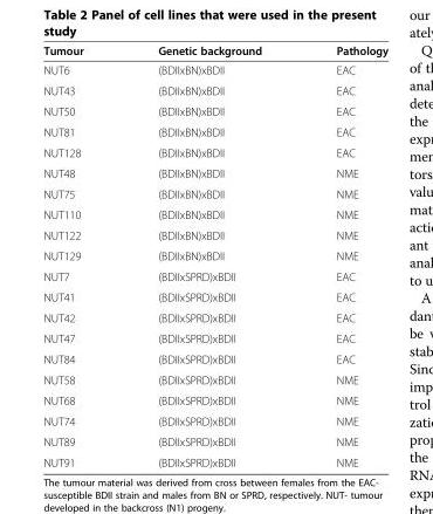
<table><thead><tr><td>Tumour</td><td>Genetic background</td><td>Pathology</td></tr></thead><tbody><tr><td>NUT6</td><td>(BDIIxBN)xBDII</td><td>EAC</td></tr><tr><td>NUT43</td><td>(BDIIxBN)xBDII</td><td>EAC</td></tr><tr><td>NUT50</td><td>(BDIIxBN)xBDII</td><td>EAC</td></tr><tr><td>NUT81</td><td>(BDIIxBN)xBDII</td><td>EAC</td></tr><tr><td>NUT128</td><td>(BDIIxBN)xBDII</td><td>EAC</td></tr><tr><td>NUT48</td><td>(BDIIxBN)xBDII</td><td>NME</td></tr><tr><td>NUT75</td><td>(BDIIxBN)xBDII</td><td>NME</td></tr><tr><td>NUT110</td><td>(BDIIxBN)xBDII</td><td>NME</td></tr><tr><td>NUT122</td><td>(BDIIxBN)xBDII</td><td>NME</td></tr><tr><td>NUT129</td><td>(BDIIxBN)xBDII</td><td>NME</td></tr><tr><td>NUT7</td><td>(BDIIxSPRD)xBDII</td><td>EAC</td></tr><tr><td>NUT41</td><td>(BDIIxSPRD)xBDII</td><td>EAC</td></tr><tr><td>NUT42</td><td>(BDIIxSPRD)xBDII</td><td>EAC</td></tr><tr><td>NUT47</td><td>(BDIIxSPRD)xBDII</td><td>EAC</td></tr><tr><td>NUT84</td><td>(BDIIxSPRD)xBDII</td><td>EAC</td></tr><tr><td>NUT58</td><td>(BDIIxSPRD)xBDII</td><td>NME</td></tr><tr><td>NUT68</td><td>(BDIIxSPRD)xBDII</td><td>NME</td></tr><tr><td>NUT74</td><td>(BDIIxSPRD)xBDII</td><td>NME</td></tr><tr><td>NUT89</td><td>(BDIIxSPRD)xBDII</td><td>NME</td></tr><tr><td>NUT91</td><td>(BDIIxSPRD)xBDII</td><td>NME</td></tr></tbody></table>